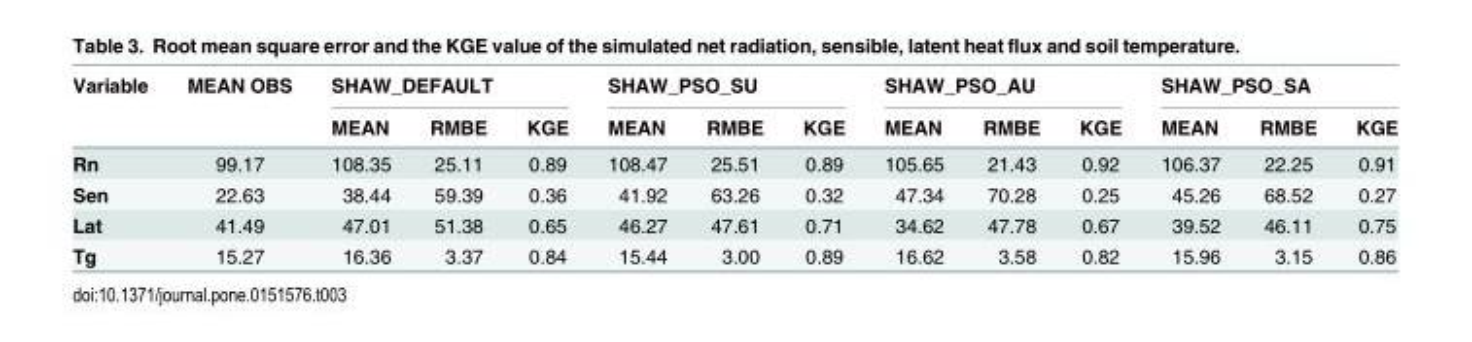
<table><thead><tr><td rowspan="2">Variable</td><td rowspan="2">MEAN OBS</td><td colspan="3">SHAW_DEFAULT</td><td colspan="3">SHAW_PSO_SU</td><td colspan="3">SHAW_PSO_AU</td><td colspan="3">SHAW_PSO_SA</td></tr><tr><td>MEAN</td><td>RMBE</td><td>KGE</td><td>MEAN</td><td>RMBE</td><td>KGE</td><td>MEAN</td><td>RMBE</td><td>KGE</td><td>MEAN</td><td>RMBE</td><td>KGE</td></tr></thead><tbody><tr><td>Rn</td><td>99.17</td><td>108.35</td><td>25.11</td><td>0.89</td><td>108.47</td><td>25.51</td><td>0.89</td><td>105.65</td><td>21.43</td><td>0.92</td><td>106.37</td><td>22.25</td><td>0.91</td></tr><tr><td>Sen</td><td>22.63</td><td>38.44</td><td>59.39</td><td>0.36</td><td>41.92</td><td>63.26</td><td>0.32</td><td>47.34</td><td>70.28</td><td>0.25</td><td>45.26</td><td>68.52</td><td>0.27</td></tr><tr><td>Lat</td><td>41.49</td><td>47.01</td><td>51.38</td><td>0.65</td><td>46.27</td><td>47.61</td><td>0.71</td><td>34.62</td><td>47.78</td><td>0.67</td><td>39.52</td><td>46.11</td><td>0.75</td></tr><tr><td>Tg</td><td>15.27</td><td>16.36</td><td>3.37</td><td>0.84</td><td>15.44</td><td>3.00</td><td>0.89</td><td>16.62</td><td>3.58</td><td>0.82</td><td>15.96</td><td>3.15</td><td>0.86</td></tr></tbody></table>